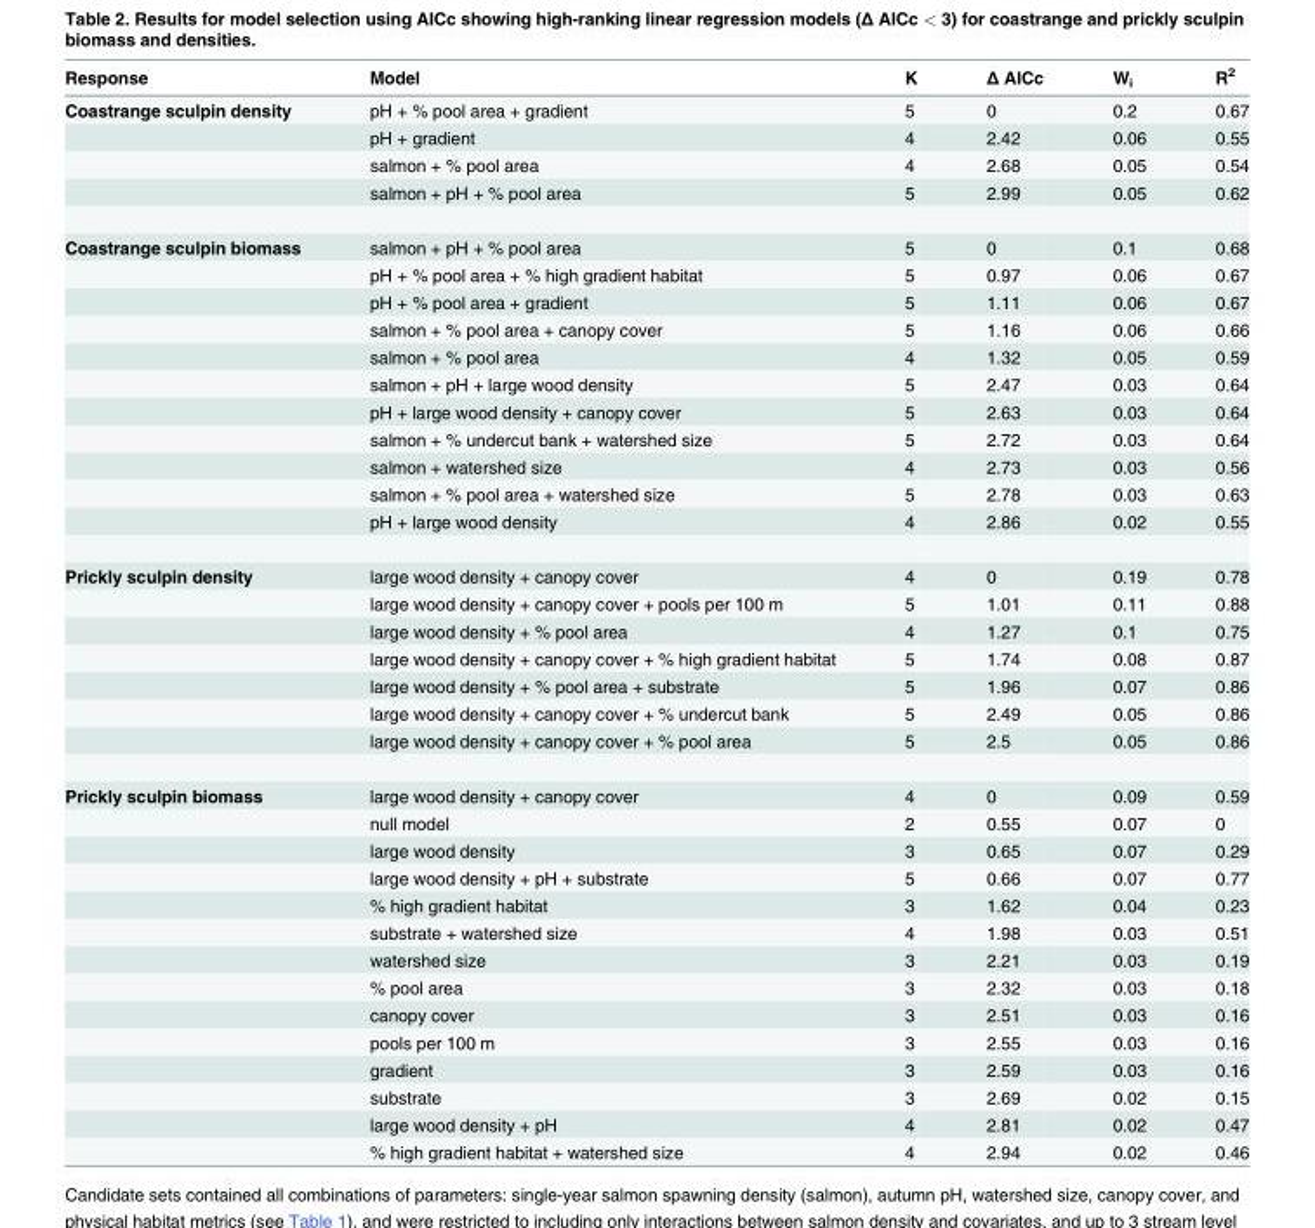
<table><thead><tr><td>Response</td><td>Model</td><td>K</td><td>Δ AICc</td><td>W<sub>i</sub></td><td>R<sup>2</sup></td></tr></thead><tbody><tr><td rowspan="4">Coastrange sculpin density</td><td>pH + % pool area + gradient</td><td>5</td><td>0</td><td>0.2</td><td>0.67</td></tr><tr><td>pH + gradient</td><td>4</td><td>2.42</td><td>0.06</td><td>0.55</td></tr><tr><td>salmon + % pool area</td><td>4</td><td>2.68</td><td>0.05</td><td>0.54</td></tr><tr><td>salmon + pH + % pool area</td><td>5</td><td>2.99</td><td>0.05</td><td>0.62</td></tr><tr><td rowspan="11">Coastrange sculpin biomass</td><td>salmon + pH + % pool area</td><td>5</td><td>0</td><td>0.1</td><td>0.68</td></tr><tr><td>pH + % pool area + % high gradient habitat</td><td>5</td><td>0.97</td><td>0.06</td><td>0.67</td></tr><tr><td>pH + % pool area + gradient</td><td>5</td><td>1.11</td><td>0.06</td><td>0.67</td></tr><tr><td>salmon + % pool area + canopy cover</td><td>5</td><td>1.16</td><td>0.06</td><td>0.66</td></tr><tr><td>salmon + % pool area</td><td>4</td><td>1.32</td><td>0.05</td><td>0.59</td></tr><tr><td>salmon + pH + large wood density</td><td>5</td><td>2.47</td><td>0.03</td><td>0.64</td></tr><tr><td>pH + large wood density + canopy cover</td><td>5</td><td>2.63</td><td>0.03</td><td>0.64</td></tr><tr><td>salmon + % undercut bank + watershed size</td><td>5</td><td>2.72</td><td>0.03</td><td>0.64</td></tr><tr><td>salmon + watershed size</td><td>4</td><td>2.73</td><td>0.03</td><td>0.56</td></tr><tr><td>salmon + % pool area + watershed size</td><td>5</td><td>2.78</td><td>0.03</td><td>0.63</td></tr><tr><td>pH + large wood density</td><td>4</td><td>2.86</td><td>0.02</td><td>0.55</td></tr><tr><td rowspan="7">Prickly sculpin density</td><td>large wood density + canopy cover</td><td>4</td><td>0</td><td>0.19</td><td>0.78</td></tr><tr><td>large wood density + canopy cover + pools per 100 m</td><td>5</td><td>1.01</td><td>0.11</td><td>0.88</td></tr><tr><td>large wood density + % pool area</td><td>4</td><td>1.27</td><td>0.1</td><td>0.75</td></tr><tr><td>large wood density + canopy cover + % high gradient habitat</td><td>5</td><td>1.74</td><td>0.08</td><td>0.87</td></tr><tr><td>large wood density + % pool area + substrate</td><td>5</td><td>1.96</td><td>0.07</td><td>0.86</td></tr><tr><td>large wood density + canopy cover + % undercut bank</td><td>5</td><td>2.49</td><td>0.05</td><td>0.86</td></tr><tr><td>large wood density + canopy cover + % pool area</td><td>5</td><td>2.5</td><td>0.05</td><td>0.86</td></tr><tr><td rowspan="14">Prickly sculpin biomass</td><td>large wood density + canopy cover</td><td>4</td><td>0</td><td>0.09</td><td>0.59</td></tr><tr><td>null model</td><td>2</td><td>0.55</td><td>0.07</td><td>0</td></tr><tr><td>large wood density</td><td>3</td><td>0.65</td><td>0.07</td><td>0.29</td></tr><tr><td>large wood density + pH + substrate</td><td>5</td><td>0.66</td><td>0.07</td><td>0.77</td></tr><tr><td>% high gradient habitat</td><td>3</td><td>1.62</td><td>0.04</td><td>0.23</td></tr><tr><td>substrate + watershed size</td><td>4</td><td>1.98</td><td>0.03</td><td>0.51</td></tr><tr><td>watershed size</td><td>3</td><td>2.21</td><td>0.03</td><td>0.19</td></tr><tr><td>% pool area</td><td>3</td><td>2.32</td><td>0.03</td><td>0.18</td></tr><tr><td>canopy cover</td><td>3</td><td>2.51</td><td>0.03</td><td>0.16</td></tr><tr><td>pools per 100 m</td><td>3</td><td>2.55</td><td>0.03</td><td>0.16</td></tr><tr><td>gradient</td><td>3</td><td>2.59</td><td>0.03</td><td>0.16</td></tr><tr><td>substrate</td><td>3</td><td>2.69</td><td>0.02</td><td>0.15</td></tr><tr><td>large wood density + pH</td><td>4</td><td>2.81</td><td>0.02</td><td>0.47</td></tr><tr><td>% high gradient habitat + watershed size</td><td>4</td><td>2.94</td><td>0.02</td><td>0.46</td></tr></tbody></table>